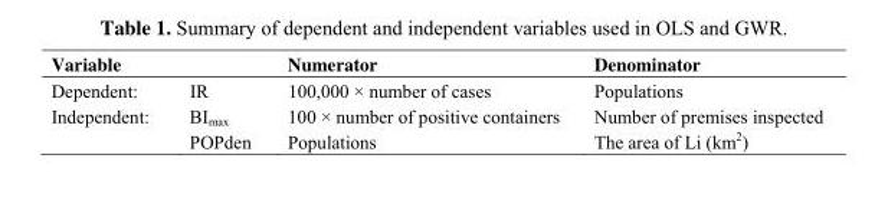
<table><thead><tr><td colspan="2">Variable</td><td rowspan="2">Numerator 100,000 × number of cases</td><td rowspan="2">Denominator Populations</td></tr><tr><td>Dependent:</td><td>IR</td></tr></thead><tbody><tr><td rowspan="2">Independent:</td><td>BI<sub>max</sub></td><td>100 × number of positive containers</td><td>Number of premises inspected</td></tr><tr><td>POPden</td><td>Populations</td><td>The area of Li (km<sup>2</sup>)</td></tr></tbody></table>